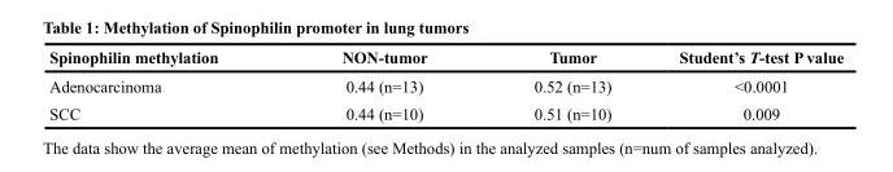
<table><thead><tr><td>Spinophilin methylation</td><td>NON-tumor</td><td>Tumor</td><td>Student’s T-test P value</td></tr></thead><tbody><tr><td>Adenocarcinoma</td><td>0.44 (n=13)</td><td>0.52 (n=13)</td><td>&lt;0.0001</td></tr><tr><td>SCC</td><td>0.44 (n=10)</td><td>0.51 (n=10)</td><td>0.009</td></tr></tbody></table>